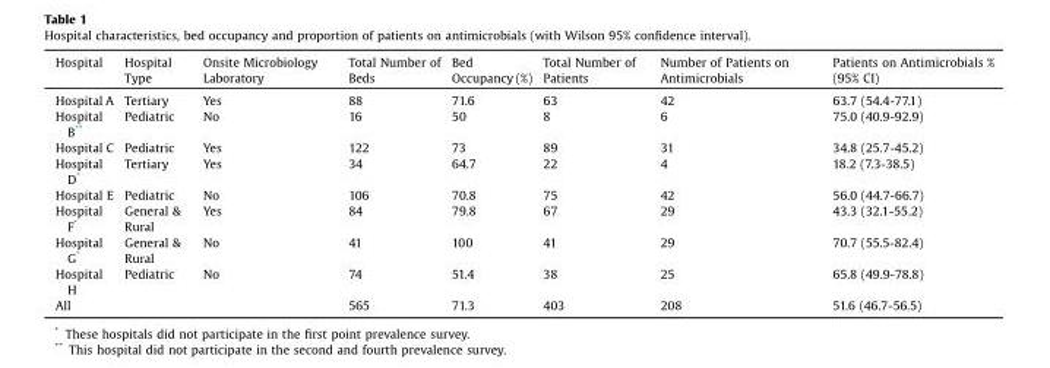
<table><thead><tr><td>Hospital</td><td>Hospital Type</td><td>Onsite Microbiology Laboratory</td><td>Total Number of Beds</td><td>Bed Occupancy (%)</td><td>Total Number of Patients</td><td>Number of Patients on Antimicrobials</td><td>Patients on Antimicrobials % (95% CI)</td></tr></thead><tbody><tr><td>Hospital A</td><td>Tertiary</td><td>Yes</td><td>88</td><td>71.6</td><td>63</td><td>42</td><td>63.7 (54.4-77.1)</td></tr><tr><td>Hospital B**</td><td>Pediatric</td><td>No</td><td>16</td><td>50</td><td>8</td><td>6</td><td>75.0 (40.9-92.9)</td></tr><tr><td>Hospital C</td><td>Pediatric</td><td>Yes</td><td>122</td><td>73</td><td>89</td><td>31</td><td>34.8 (25.7-45.2)</td></tr><tr><td>Hospital D*</td><td>Tertiary</td><td>Yes</td><td>34</td><td>64.7</td><td>22</td><td>4</td><td>18.2 (7.3-38.5)</td></tr><tr><td>Hospital E</td><td>Pediatric</td><td>No</td><td>106</td><td>70.8</td><td>75</td><td>42</td><td>56.0 (44.7-66.7)</td></tr><tr><td>Hospital F*</td><td>General &amp; Rural</td><td>Yes</td><td>84</td><td>79.8</td><td>67</td><td>29</td><td>43.3 (32.1-55.2)</td></tr><tr><td>Hospital G*</td><td>General &amp; Rural</td><td>No</td><td>41</td><td>100</td><td>41</td><td>29</td><td>70.7 (55.5-82.4)</td></tr><tr><td>Hospital H</td><td>Pediatric</td><td>No</td><td>74</td><td>51.4</td><td>38</td><td>25</td><td>65.8 (49.9-78.8)</td></tr><tr><td>All</td><td></td><td></td><td>565</td><td>71.3</td><td>403</td><td>208</td><td>51.6 (46.7-56.5)</td></tr></tbody></table>